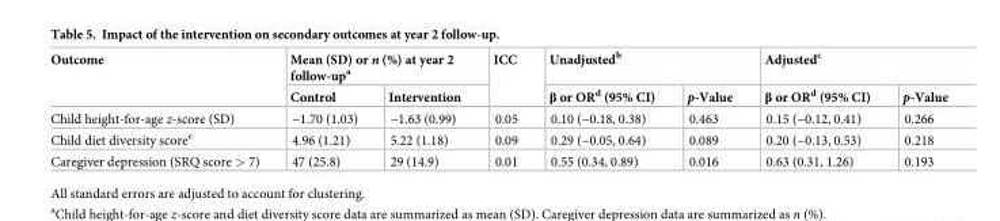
<table><thead><tr><td rowspan="2">Outcome</td><td colspan="2">Mean (SD) or n (%) at year 2 follow-up<sup>a</sup></td><td rowspan="2">ICC</td><td colspan="2">Unadjusted<sup>b</sup></td><td colspan="2">Adjusted<sup>c</sup></td></tr><tr><td>Control</td><td>Intervention</td><td>β or OR<sup>d</sup> (95% CI)</td><td>p-Value</td><td>β or OR<sup>d</sup> (95% CI)</td><td>p-Value</td></tr></thead><tbody><tr><td>Child height-for-age z-score (SD)</td><td>−1.70 (1.03)</td><td>−1.63 (0.99)</td><td>0.05</td><td>0.10 (−0.18, 0.38)</td><td>0.463</td><td>0.15 (−0.12, 0.41)</td><td>0.266</td></tr><tr><td>Child diet diversity score<sup>e</sup></td><td>4.96 (1.21)</td><td>5.22 (1.18)</td><td>0.09</td><td>0.29 (−0.05, 0.64)</td><td>0.089</td><td>0.20 (−0.13, 0.53)</td><td>0.218</td></tr><tr><td>Caregiver depression (SRQ score &gt; 7)</td><td>47 (25.8)</td><td>29 (14.9)</td><td>0.01</td><td>0.55 (0.34, 0.89)</td><td>0.016</td><td>0.63 (0.31, 1.26)</td><td>0.193</td></tr></tbody></table>